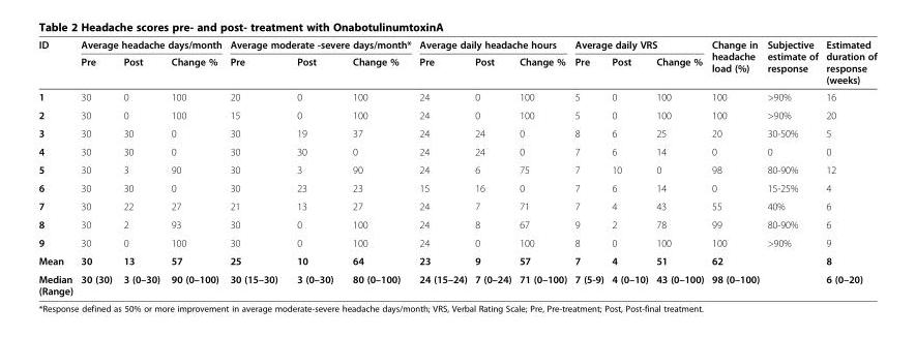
<table><thead><tr><td rowspan="2">ID</td><td colspan="3">Average headache days/month</td><td colspan="3">Average moderate -severe days/month*</td><td colspan="3">Average daily headache hours</td><td colspan="3">Average daily VRS</td><td rowspan="2">Change in headache load (%)</td><td rowspan="2">Subjective estimate of response</td><td rowspan="2">Estimated duration of response (weeks)</td></tr><tr><td>Pre</td><td>Post</td><td>Change %</td><td>Pre</td><td>Post</td><td>Change %</td><td>Pre</td><td>Post</td><td>Change %</td><td>Pre</td><td>Post</td><td>Change %</td></tr></thead><tbody><tr><td>1</td><td>30</td><td>0</td><td>100</td><td>20</td><td>0</td><td>100</td><td>24</td><td>0</td><td>100</td><td>5</td><td>0</td><td>100</td><td>100</td><td>&gt;90%</td><td>16</td></tr><tr><td>2</td><td>30</td><td>0</td><td>100</td><td>15</td><td>0</td><td>100</td><td>24</td><td>0</td><td>100</td><td>5</td><td>0</td><td>100</td><td>100</td><td>&gt;90%</td><td>20</td></tr><tr><td>3</td><td>30</td><td>30</td><td>0</td><td>30</td><td>19</td><td>37</td><td>24</td><td>24</td><td>0</td><td>8</td><td>6</td><td>25</td><td>20</td><td>30-50%</td><td>5</td></tr><tr><td>4</td><td>30</td><td>30</td><td>0</td><td>30</td><td>30</td><td>0</td><td>24</td><td>24</td><td>0</td><td>7</td><td>6</td><td>14</td><td>0</td><td>0</td><td>0</td></tr><tr><td>5</td><td>30</td><td>3</td><td>90</td><td>30</td><td>3</td><td>90</td><td>24</td><td>6</td><td>75</td><td>7</td><td>10</td><td>0</td><td>98</td><td>80-90%</td><td>12</td></tr><tr><td>6</td><td>30</td><td>30</td><td>0</td><td>30</td><td>23</td><td>23</td><td>15</td><td>16</td><td>0</td><td>7</td><td>6</td><td>14</td><td>0</td><td>15-25%</td><td>4</td></tr><tr><td>7</td><td>30</td><td>22</td><td>27</td><td>21</td><td>13</td><td>27</td><td>24</td><td>7</td><td>71</td><td>7</td><td>4</td><td>43</td><td>55</td><td>40%</td><td>6</td></tr><tr><td>8</td><td>30</td><td>2</td><td>93</td><td>30</td><td>0</td><td>100</td><td>24</td><td>8</td><td>67</td><td>9</td><td>2</td><td>78</td><td>99</td><td>80-90%</td><td>6</td></tr><tr><td>9</td><td>30</td><td>0</td><td>100</td><td>30</td><td>0</td><td>100</td><td>24</td><td>0</td><td>100</td><td>8</td><td>0</td><td>100</td><td>100</td><td>&gt;90%</td><td>9</td></tr><tr><td>Mean</td><td>30</td><td>13</td><td>57</td><td>25</td><td>10</td><td>64</td><td>23</td><td>9</td><td>57</td><td>7</td><td>4</td><td>51</td><td>62</td><td></td><td>8</td></tr><tr><td>Median (Range)</td><td>30 (30)</td><td>3 (0–30)</td><td>90 (0–100)</td><td>30 (15–30)</td><td>3 (0–30)</td><td>80 (0–100)</td><td>24 (15–24)</td><td>7 (0–24)</td><td>71 (0–100)</td><td>7 (5-9)</td><td>4 (0–10)</td><td>43 (0–100)</td><td>98 (0–100)</td><td></td><td>6 (0–20)</td></tr></tbody></table>